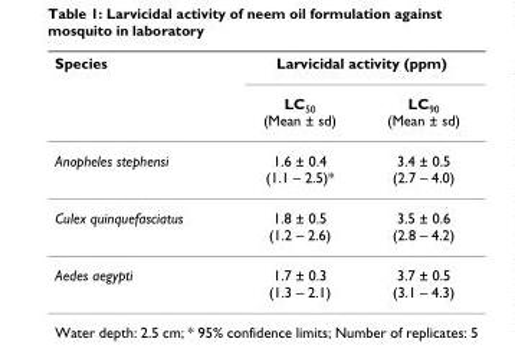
<table><thead><tr><td rowspan="2">Species</td><td colspan="2">Larvicidal activity (ppm)</td></tr><tr><td>LC<sub>50</sub> (Mean ± sd)</td><td>LC<sub>90</sub> (Mean ± sd)</td></tr></thead><tbody><tr><td>Anopheles stephensi</td><td>1.6 ± 0.4 (1.1 – 2.5)*</td><td>3.4 ± 0.5 (2.7 – 4.0)</td></tr><tr><td>Culex quinquefasciatus</td><td>1.8 ± 0.5 (1.2 – 2.6)</td><td>3.5 ± 0.6 (2.8 – 4.2)</td></tr><tr><td>Aedes aegypti</td><td>1.7 ± 0.3 (1.3 – 2.1)</td><td>3.7 ± 0.5 (3.1 – 4.3)</td></tr></tbody></table>